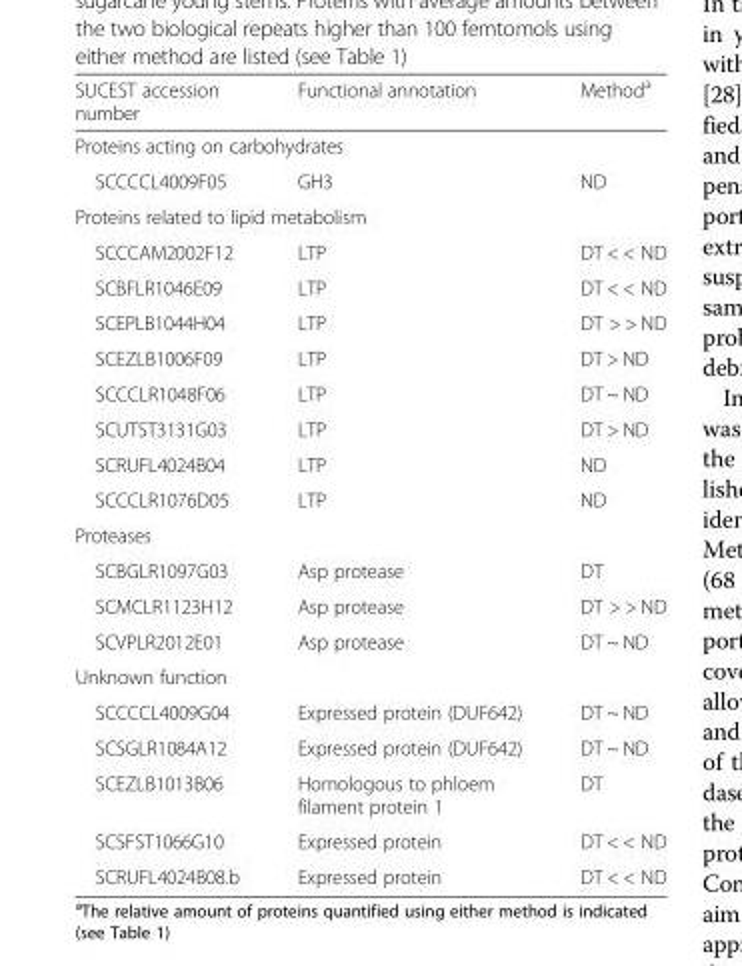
<table><thead><tr><td>SUCEST accession number</td><td>Functional annotation</td><td>Method<sup>a</sup></td></tr></thead><tbody><tr><td colspan="3">Proteins acting on carbohydrates</td></tr><tr><td>SCCCCL4009F05</td><td>GH3</td><td>ND</td></tr><tr><td colspan="3">Proteins related to lipid metabolism</td></tr><tr><td>SCCCAM2002F12</td><td>LTP</td><td>DT &lt; &lt; ND</td></tr><tr><td>SCBFLR1046E09</td><td>LTP</td><td>DT &lt; &lt; ND</td></tr><tr><td>SCEPLB1044H04</td><td>LTP</td><td>DT &gt; &gt; ND</td></tr><tr><td>SCEZLB1006F09</td><td>LTP</td><td>DT &gt; ND</td></tr><tr><td>SCCCLR1048F06</td><td>LTP</td><td>DT ~ ND</td></tr><tr><td>SCUTST3131G03</td><td>LTP</td><td>DT &gt; ND</td></tr><tr><td>SCRUFL4024B04</td><td>LTP</td><td>ND</td></tr><tr><td>SCCCLR1076D05</td><td>LTP</td><td>ND</td></tr><tr><td colspan="3">Proteases</td></tr><tr><td>SCBGLR1097G03</td><td>Asp protease</td><td>DT</td></tr><tr><td>SCMCLR1123H12</td><td>Asp protease</td><td>DT &gt; &gt; ND</td></tr><tr><td>SCVPLR2012E01</td><td>Asp protease</td><td>DT ~ ND</td></tr><tr><td colspan="3">Unknown function</td></tr><tr><td>SCCCCL4009G04</td><td>Expressed protein (DUF642)</td><td>DT ~ ND</td></tr><tr><td>SCSGLR1084A12</td><td>Expressed protein (DUF642)</td><td>DT ~ ND</td></tr><tr><td>SCEZLB1013B06</td><td>Homologous to phloem filament protein 1</td><td>DT</td></tr><tr><td>SCSFST1066G10</td><td>Expressed protein</td><td>DT &lt; &lt; ND</td></tr><tr><td>SCRUFL4024B08.b</td><td>Expressed protein</td><td>DT &lt; &lt; ND</td></tr></tbody></table>